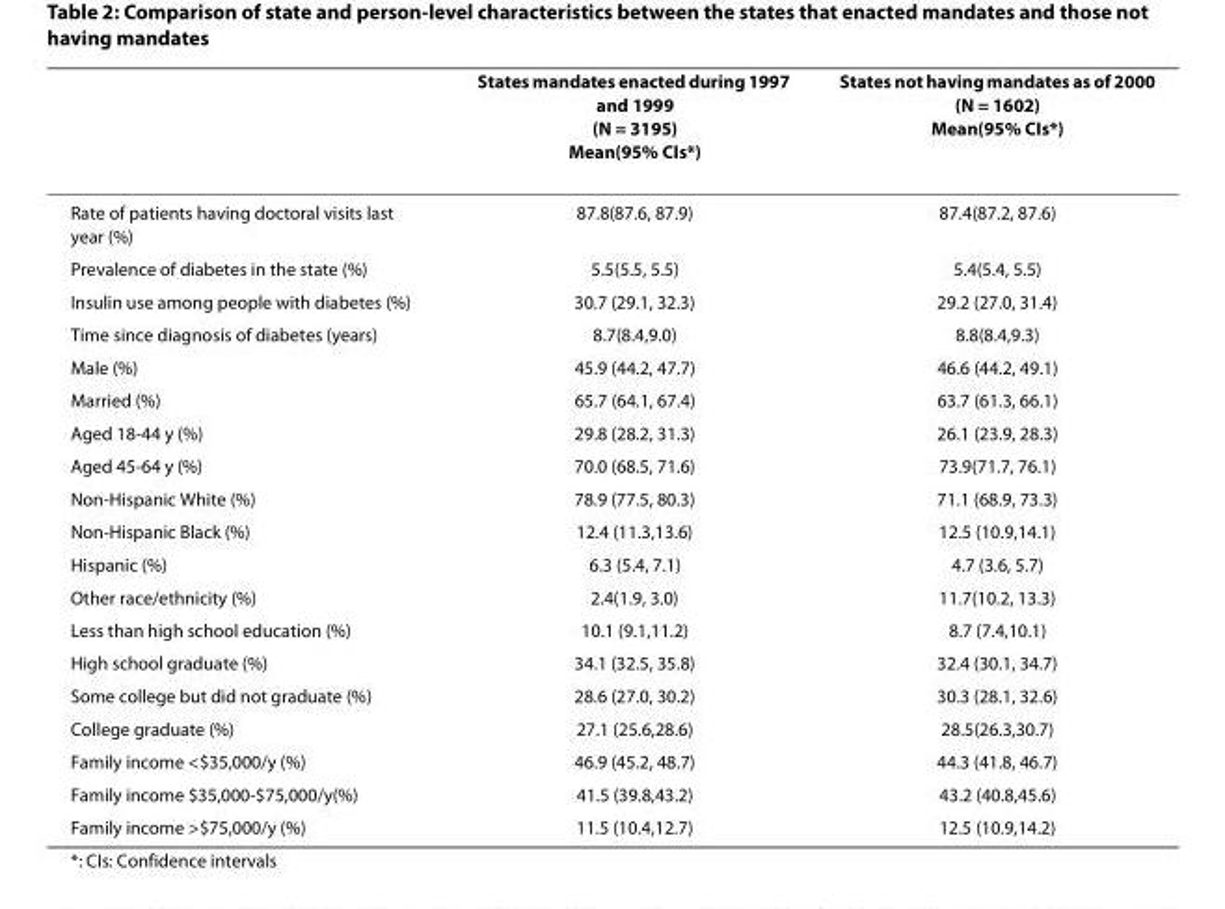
<table><thead><tr><td></td><td>States mandates enacted during 1997 and 1999 (N = 3195) Mean(95% CIs*)</td><td>States not having mandates as of 2000 (N = 1602) Mean(95% CIs*)</td></tr></thead><tbody><tr><td>Rate of patients having doctoral visits last year (%)</td><td>87.8(87.6, 87.9)</td><td>87.4(87.2, 87.6)</td></tr><tr><td>Prevalence of diabetes in the state (%)</td><td>5.5(5.5, 5.5)</td><td>5.4(5.4, 5.5)</td></tr><tr><td>Insulin use among people with diabetes (%)</td><td>30.7 (29.1, 32.3)</td><td>29.2 (27.0, 31.4)</td></tr><tr><td>Time since diagnosis of diabetes (years)</td><td>8.7(8.4,9.0)</td><td>8.8(8.4,9.3)</td></tr><tr><td>Male (%)</td><td>45.9 (44.2, 47.7)</td><td>46.6 (44.2, 49.1)</td></tr><tr><td>Married (%)</td><td>65.7 (64.1, 67.4)</td><td>63.7 (61.3, 66.1)</td></tr><tr><td>Aged 18-44 y (%)</td><td>29.8 (28.2, 31.3)</td><td>26.1 (23.9, 28.3)</td></tr><tr><td>Aged 45-64 y (%)</td><td>70.0 (68.5, 71.6)</td><td>73.9(71.7, 76.1)</td></tr><tr><td>Non-Hispanic White (%)</td><td>78.9 (77.5, 80.3)</td><td>71.1 (68.9, 73.3)</td></tr><tr><td>Non-Hispanic Black (%)</td><td>12.4 (11.3,13.6)</td><td>12.5 (10.9,14.1)</td></tr><tr><td>Hispanic (%)</td><td>6.3 (5.4, 7.1)</td><td>4.7 (3.6, 5.7)</td></tr><tr><td>Other race/ethnicity (%)</td><td>2.4(1.9, 3.0)</td><td>11.7(10.2, 13.3)</td></tr><tr><td>Less than high school education (%)</td><td>10.1 (9.1,11.2)</td><td>8.7 (7.4,10.1)</td></tr><tr><td>High school graduate (%)</td><td>34.1 (32.5, 35.8)</td><td>32.4 (30.1, 34.7)</td></tr><tr><td>Some college but did not graduate (%)</td><td>28.6 (27.0, 30.2)</td><td>30.3 (28.1, 32.6)</td></tr><tr><td>College graduate (%)</td><td>27.1 (25.6,28.6)</td><td>28.5(26.3,30.7)</td></tr><tr><td>Family income &lt;$35,000/y (%)</td><td>46.9 (45.2, 48.7)</td><td>44.3 (41.8, 46.7)</td></tr><tr><td>Family income $35,000-$75,000/y(%)</td><td>41.5 (39.8,43.2)</td><td>43.2 (40.8,45.6)</td></tr><tr><td>Family income &gt;$75,000/y (%)</td><td>11.5 (10.4,12.7)</td><td>12.5 (10.9,14.2)</td></tr></tbody></table>